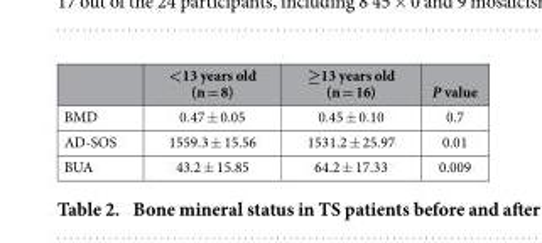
<table><thead><tr><td></td><td>&lt;13 years old (n = 8)</td><td>≥13 years old (n = 16)</td><td>P value</td></tr></thead><tbody><tr><td>BMD</td><td>0.47 ± 0.05</td><td>0.45 ± 0.10</td><td>0.7</td></tr><tr><td>AD-SOS</td><td>1559.3 ± 15.56</td><td>1531.2 ± 25.97</td><td>0.01</td></tr><tr><td>BUA</td><td>43.2 ± 15.85</td><td>64.2 ± 17.33</td><td>0.009</td></tr></tbody></table>